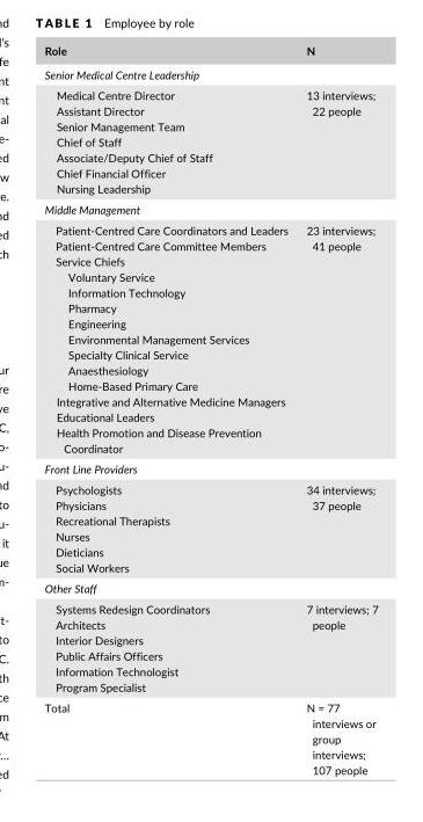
<table><thead><tr><td>Role</td><td>N</td></tr></thead><tbody><tr><td colspan="2">Senior Medical Centre Leadership</td></tr><tr><td>Medical Centre Director Assistant Director Senior Management Team Chief of Staff Associate/Deputy Chief of Staff Chief Financial Officer Nursing Leadership</td><td>13 interviews; 22 people</td></tr><tr><td colspan="2">Middle Management</td></tr><tr><td>Patient- Centred Care Coordinators and Leaders Patient- Centred Care Committee Members Service Chiefs Voluntary Service Information Technology Pharmacy Engineering Environmental Management Services Specialty Clinical Service Anaesthesiology Home-Based Primary Care Integrative and Alternative Medicine Managers Educational Leaders Health Promotion and Disease Prevention Coordinator</td><td>23 interviews; 41 people</td></tr><tr><td colspan="2">Front Line Providers</td></tr><tr><td>Psychologists Physicians Recreational Therapists Nurses Dieticians Social Workers</td><td>34 interviews; 37 people</td></tr><tr><td colspan="2">Other Staff</td></tr><tr><td>Systems Redesign Coordinators Architects Interior Designers Public Affairs Officers Information Technologist Program Specialist</td><td>7 interviews; 7 people</td></tr><tr><td>Total</td><td>N = 77 interviews or group interviews; 107 people</td></tr></tbody></table>